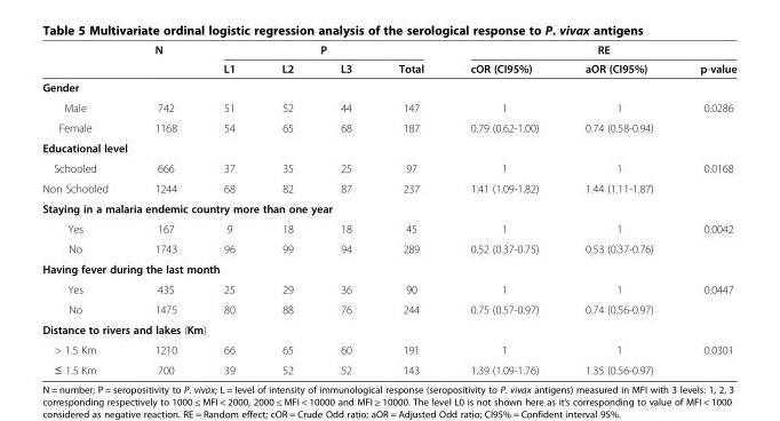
<table><thead><tr><td rowspan="2"></td><td rowspan="2">N</td><td colspan="4">P</td><td colspan="3">RE</td></tr><tr><td>L1</td><td>L2</td><td>L3</td><td>Total</td><td>cOR (CI95%)</td><td>aOR (CI95%)</td><td>p-value</td></tr></thead><tbody><tr><td colspan="9">Gender</td></tr><tr><td>Male</td><td>742</td><td>51</td><td>52</td><td>44</td><td>147</td><td>1</td><td>1</td><td rowspan="2">0.0286</td></tr><tr><td>Female</td><td>1168</td><td>54</td><td>65</td><td>68</td><td>187</td><td>0.79 (0.62-1.00)</td><td>0.74 (0.58-0.94)</td></tr><tr><td colspan="9">Educational level</td></tr><tr><td>Schooled</td><td>666</td><td>37</td><td>35</td><td>25</td><td>97</td><td>1</td><td>1</td><td rowspan="2">0.0168</td></tr><tr><td>Non Schooled</td><td>1244</td><td>68</td><td>82</td><td>87</td><td>237</td><td>1.41 (1.09-1.82)</td><td>1.44 (1.11-1.87)</td></tr><tr><td colspan="9">Staying in a malaria endemic country more than one year</td></tr><tr><td>Yes</td><td>167</td><td>9</td><td>18</td><td>18</td><td>45</td><td>1</td><td>1</td><td rowspan="2">0.0042</td></tr><tr><td>No</td><td>1743</td><td>96</td><td>99</td><td>94</td><td>289</td><td>0.52 (0.37-0.75)</td><td>0.53 (0.37-0.76)</td></tr><tr><td colspan="9">Having fever during the last month</td></tr><tr><td>Yes</td><td>435</td><td>25</td><td>29</td><td>36</td><td>90</td><td>1</td><td>1</td><td rowspan="2">0.0447</td></tr><tr><td>No</td><td>1475</td><td>80</td><td>88</td><td>76</td><td>244</td><td>0.75 (0.57-0.97)</td><td>0.74 (0.56-0.97)</td></tr><tr><td colspan="9">Distance to rivers and lakes (Km)</td></tr><tr><td>&gt; 1.5 Km</td><td>1210</td><td>66</td><td>65</td><td>60</td><td>191</td><td>1</td><td>1</td><td>0.0301</td></tr><tr><td>≤ 1.5 Km</td><td>700</td><td>39</td><td>52</td><td>52</td><td>143</td><td>1.39 (1.09-1.76)</td><td>1.35 (0.56-0.97)</td><td></td></tr></tbody></table>